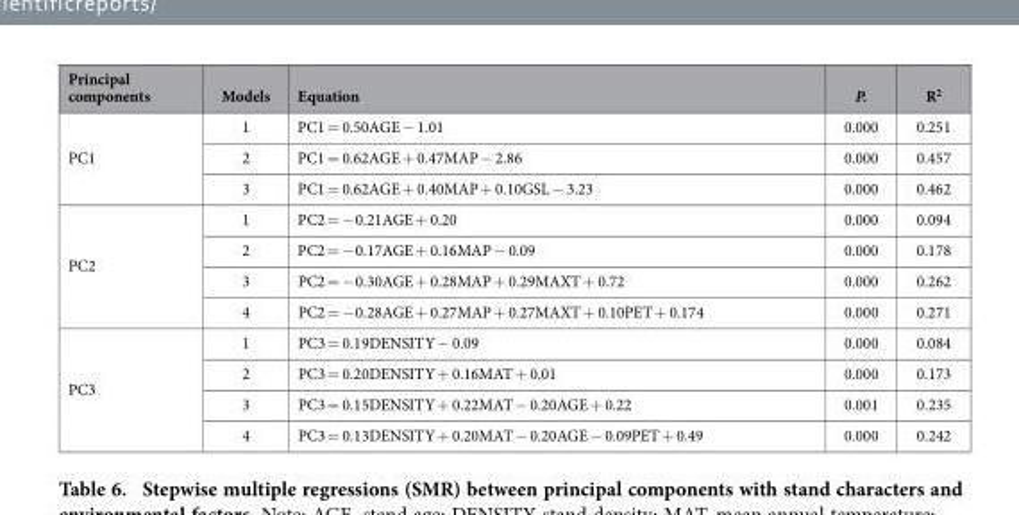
<table><thead><tr><td>Principal components</td><td>Models</td><td>Equation</td><td>P.</td><td>R<sup>2</sup></td></tr></thead><tbody><tr><td rowspan="3">PC1</td><td>1</td><td>PC1 = 0.50AGE − 1.01</td><td>0.000</td><td>0.251</td></tr><tr><td>2</td><td>PC1 = 0.62AGE + 0.47MAP − 2.86</td><td>0.000</td><td>0.457</td></tr><tr><td>3</td><td>PC1 = 0.62AGE + 0.40MAP + 0.10GSL − 3.23</td><td>0.000</td><td>0.462</td></tr><tr><td rowspan="4">PC2</td><td>1</td><td>PC2 = − 0.21AGE + 0.20</td><td>0.000</td><td>0.094</td></tr><tr><td>2</td><td>PC2 = − 0.17AGE + 0.16MAP − 0.09</td><td>0.000</td><td>0.178</td></tr><tr><td>3</td><td>PC2 = − 0.30AGE + 0.28MAP + 0.29MAXT + 0.72</td><td>0.000</td><td>0.262</td></tr><tr><td>4</td><td>PC2 = − 0.28AGE + 0.27MAP + 0.27MAXT + 0.10PET + 0.174</td><td>0.000</td><td>0.271</td></tr><tr><td rowspan="4">PC3</td><td>1</td><td>PC3 = 0.19DENSITY − 0.09</td><td>0.000</td><td>0.084</td></tr><tr><td>2</td><td>PC3 = 0.20DENSITY + 0.16MAT + 0.01</td><td>0.000</td><td>0.173</td></tr><tr><td>3</td><td>PC3 = 0.15DENSITY + 0.22MAT − 0.20AGE + 0.22</td><td>0.001</td><td>0.235</td></tr><tr><td>4</td><td>PC3 = 0.13DENSITY + 0.20MAT − 0.20AGE − 0.09PET + 0.49</td><td>0.000</td><td>0.242</td></tr></tbody></table>